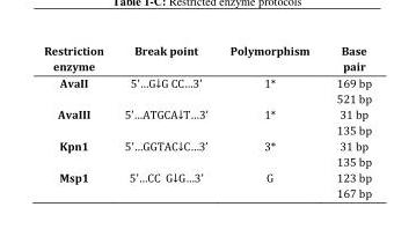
<table><thead><tr><td>Restriction enzyme</td><td>Break point</td><td>Polymorphism</td><td>Base pair</td></tr></thead><tbody><tr><td>AvaII</td><td>5’…G↓G CC…3’</td><td>1*</td><td>169 bp 521 bp</td></tr><tr><td>AvaIII</td><td>5’…ATGCA↓T…3’</td><td>1*</td><td>31 bp 135 bp</td></tr><tr><td>Kpn1</td><td>5’…GGTAC↓C…3’</td><td>3*</td><td>31 bp 135 bp</td></tr><tr><td>Msp1</td><td>5’…CC G↓G…3’</td><td>G</td><td>123 bp 167 bp</td></tr></tbody></table>